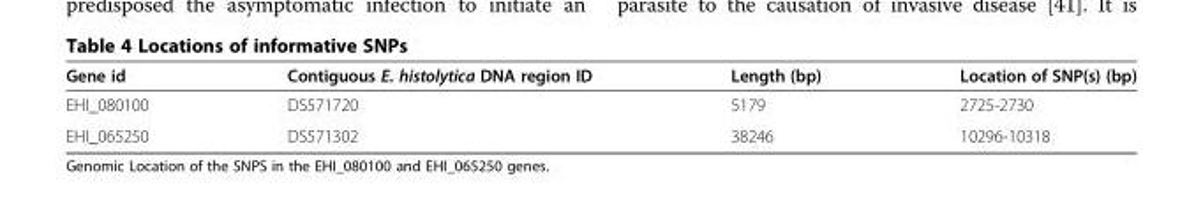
<table><thead><tr><td>Gene id</td><td>Contiguous E. histolytica DNA region ID</td><td>Length (bp)</td><td>Location of SNP(s) (bp)</td></tr></thead><tbody><tr><td>EHI_080100</td><td>DS571720</td><td>5179</td><td>2725-2730</td></tr><tr><td>EHI_065250</td><td>DS571302</td><td>38246</td><td>10296-10318</td></tr></tbody></table>